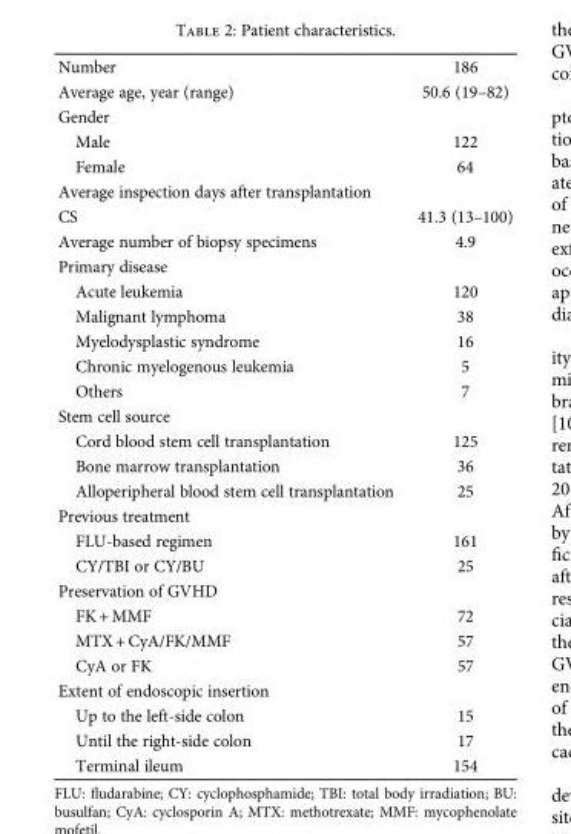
<table><tbody><tr><td>Number</td><td>186</td></tr><tr><td>Average age, year (range)</td><td>50.6 (19–82)</td></tr><tr><td colspan="2">Gender</td></tr><tr><td>Male</td><td>122</td></tr><tr><td>Female</td><td>64</td></tr><tr><td colspan="2">Average inspection days after transplantation</td></tr><tr><td>CS</td><td>41.3 (13–100)</td></tr><tr><td>Average number of biopsy specimens</td><td>4.9</td></tr><tr><td colspan="2">Primary disease</td></tr><tr><td>Acute leukemia</td><td>120</td></tr><tr><td>Malignant lymphoma</td><td>38</td></tr><tr><td>Myelodysplastic syndrome</td><td>16</td></tr><tr><td>Chronic myelogenous leukemia</td><td>5</td></tr><tr><td>Others</td><td>7</td></tr><tr><td colspan="2">Stem cell source</td></tr><tr><td>Cord blood stem cell transplantation</td><td>125</td></tr><tr><td>Bone marrow transplantation</td><td>36</td></tr><tr><td>Alloperipheral blood stem cell transplantation</td><td>25</td></tr><tr><td colspan="2">Previous treatment</td></tr><tr><td>FLU-based regimen</td><td>161</td></tr><tr><td>CY/TBI or CY/BU</td><td>25</td></tr><tr><td colspan="2">Preservation of GVHD</td></tr><tr><td>FK + MMF</td><td>72</td></tr><tr><td>MTX + CyA/FK/MMF</td><td>57</td></tr><tr><td>CyA or FK</td><td>57</td></tr><tr><td colspan="2">Extent of endoscopic insertion</td></tr><tr><td>Up to the left-side colon</td><td>15</td></tr><tr><td>Until the right-side colon</td><td>17</td></tr><tr><td>Terminal ileum</td><td>154</td></tr></tbody></table>